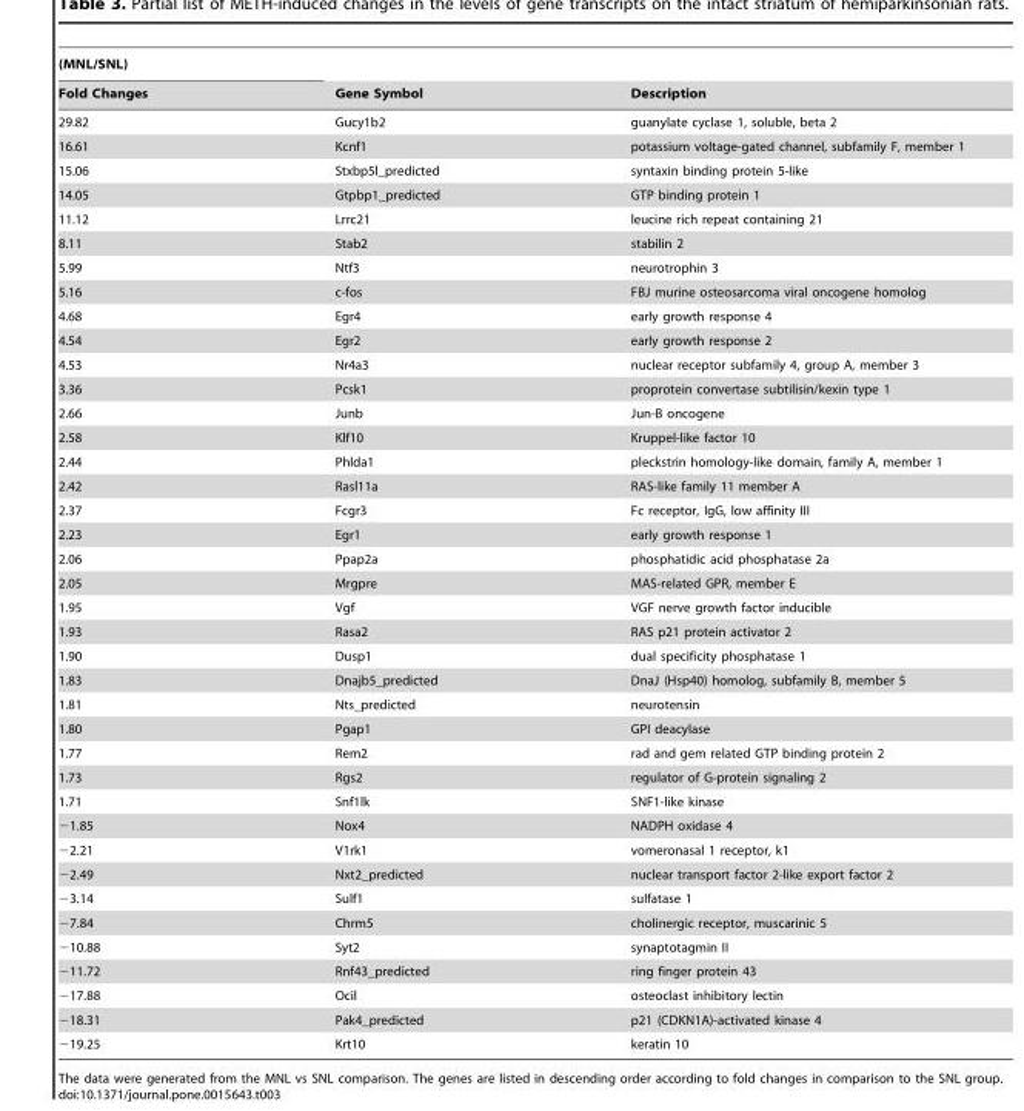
<table><thead><tr><td rowspan="2">(MNL/SNL) Fold Changes</td><td rowspan="2">Gene Symbol</td><td rowspan="2">Description</td></tr><tr></tr></thead><tbody><tr><td>29.82</td><td>Gucy1b2</td><td>guanylate cyclase 1, soluble, beta 2</td></tr><tr><td>16.61</td><td>Kcnf1</td><td>potassium voltage-gated channel, subfamily F, member 1</td></tr><tr><td>15.06</td><td>Stxbp5l_predicted</td><td>syntaxin binding protein 5-like</td></tr><tr><td>14.05</td><td>Gtpbp1_predicted</td><td>GTP binding protein 1</td></tr><tr><td>11.12</td><td>Lrrc21</td><td>leucine rich repeat containing 21</td></tr><tr><td>8.11</td><td>Stab2</td><td>stabilin 2</td></tr><tr><td>5.99</td><td>Ntf3</td><td>neurotrophin 3</td></tr><tr><td>5.16</td><td>c-fos</td><td>FBJ murine osteosarcoma viral oncogene homolog</td></tr><tr><td>4.68</td><td>Egr4</td><td>early growth response 4</td></tr><tr><td>4.54</td><td>Egr2</td><td>early growth response 2</td></tr><tr><td>4.53</td><td>Nr4a3</td><td>nuclear receptor subfamily 4, group A, member 3</td></tr><tr><td>3.36</td><td>Pcsk1</td><td>proprotein convertase subtilisin/kexin type 1</td></tr><tr><td>2.66</td><td>Junb</td><td>Jun-B oncogene</td></tr><tr><td>2.58</td><td>Klf10</td><td>Kruppel-like factor 10</td></tr><tr><td>2.44</td><td>Phlda1</td><td>pleckstrin homology-like domain, family A, member 1</td></tr><tr><td>2.42</td><td>Rasl11a</td><td>RAS-like family 11 member A</td></tr><tr><td>2.37</td><td>Fcgr3</td><td>Fc receptor, IgG, low affinity III</td></tr><tr><td>2.23</td><td>Egr1</td><td>early growth response 1</td></tr><tr><td>2.06</td><td>Ppap2a</td><td>phosphatidic acid phosphatase 2a</td></tr><tr><td>2.05</td><td>Mrgpre</td><td>MAS-related GPR, member E</td></tr><tr><td>1.95</td><td>Vgf</td><td>VGF nerve growth factor inducible</td></tr><tr><td>1.93</td><td>Rasa2</td><td>RAS p21 protein activator 2</td></tr><tr><td>1.90</td><td>Dusp1</td><td>dual specificity phosphatase 1</td></tr><tr><td>1.83</td><td>Dnajb5_predicted</td><td>DnaJ (Hsp40) homolog, subfamily B, member 5</td></tr><tr><td>1.81</td><td>Nts_predicted</td><td>neurotensin</td></tr><tr><td>1.80</td><td>Pgap1</td><td>GPI deacylase</td></tr><tr><td>1.77</td><td>Rem2</td><td>rad and gem related GTP binding protein 2</td></tr><tr><td>1.73</td><td>Rgs2</td><td>regulator of G-protein signaling 2</td></tr><tr><td>1.71</td><td>Snf1lk</td><td>SNF1-like kinase</td></tr><tr><td>−1.85</td><td>Nox4</td><td>NADPH oxidase 4</td></tr><tr><td>−2.21</td><td>V1rk1</td><td>vomeronasal 1 receptor, k1</td></tr><tr><td>−2.49</td><td>Nxt2_predicted</td><td>nuclear transport factor 2-like export factor 2</td></tr><tr><td>−3.14</td><td>Sulf1</td><td>sulfatase 1</td></tr><tr><td>−7.84</td><td>Chrm5</td><td>cholinergic receptor, muscarinic 5</td></tr><tr><td>−10.88</td><td>Syt2</td><td>synaptotagmin II</td></tr><tr><td>−11.72</td><td>Rnf43_predicted</td><td>ring finger protein 43</td></tr><tr><td>−17.88</td><td>Ocil</td><td>osteoclast inhibitory lectin</td></tr><tr><td>−18.31</td><td>Pak4_predicted</td><td>p21 (CDKN1A)-activated kinase 4</td></tr><tr><td>−19.25</td><td>Krt10</td><td>keratin 10</td></tr></tbody></table>